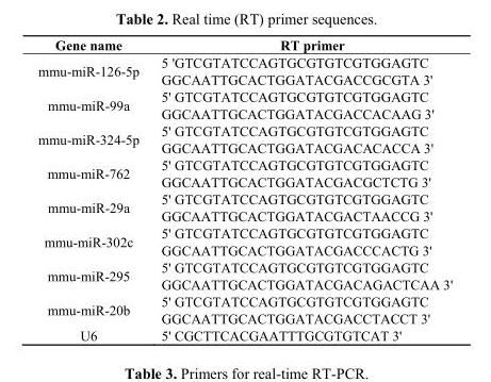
<table><thead><tr><td>Gene name</td><td>RT primer</td></tr></thead><tbody><tr><td rowspan="2">mmu-miR-126-5p</td><td>5 &#x27;GTCGTATCCAGTGCGTGTCGTGGAGTC</td></tr><tr><td>GGCAATTGCACTGGATACGACCGCGTA 3&#x27;</td></tr><tr><td rowspan="2">mmu-miR-99a</td><td>5&#x27; GTCGTATCCAGTGCGTGTCGTGGAGTC</td></tr><tr><td>GGCAATTGCACTGGATACGACCACAAG 3&#x27;</td></tr><tr><td rowspan="2">mmu-miR-324-5p</td><td>5&#x27; GTCGTATCCAGTGCGTGTCGTGGAGTC</td></tr><tr><td>GGCAATTGCACTGGATACGACACACCA 3&#x27;</td></tr><tr><td rowspan="2">mmu-miR-762</td><td>5&#x27; GTCGTATCCAGTGCGTGTCGTGGAGTC</td></tr><tr><td>GGCAATTGCACTGGATACGACGCTCTG 3&#x27;</td></tr><tr><td rowspan="2">mmu-miR-29a</td><td>5&#x27; GTCGTATCCAGTGCGTGTCGTGGAGTC</td></tr><tr><td>GGCAATTGCACTGGATACGACTAACCG 3&#x27;</td></tr><tr><td rowspan="2">mmu-miR-302c</td><td>5&#x27; GTCGTATCCAGTGCGTGTCGTGGAGTC</td></tr><tr><td>GGCAATTGCACTGGATACGACCCACTG 3&#x27;</td></tr><tr><td rowspan="2">mmu-miR-295</td><td>5&#x27; GTCGTATCCAGTGCGTGTCGTGGAGTC</td></tr><tr><td>GGCAATTGCACTGGATACGACAGACTCAA 3&#x27;</td></tr><tr><td rowspan="2">mmu-miR-20b</td><td>5&#x27; GTCGTATCCAGTGCGTGTCGTGGAGTC</td></tr><tr><td>GGCAATTGCACTGGATACGACCTACCT 3&#x27;</td></tr><tr><td>U6</td><td>5&#x27; CGCTTCACGAATTTGCGTGTCAT 3&#x27;</td></tr></tbody></table>